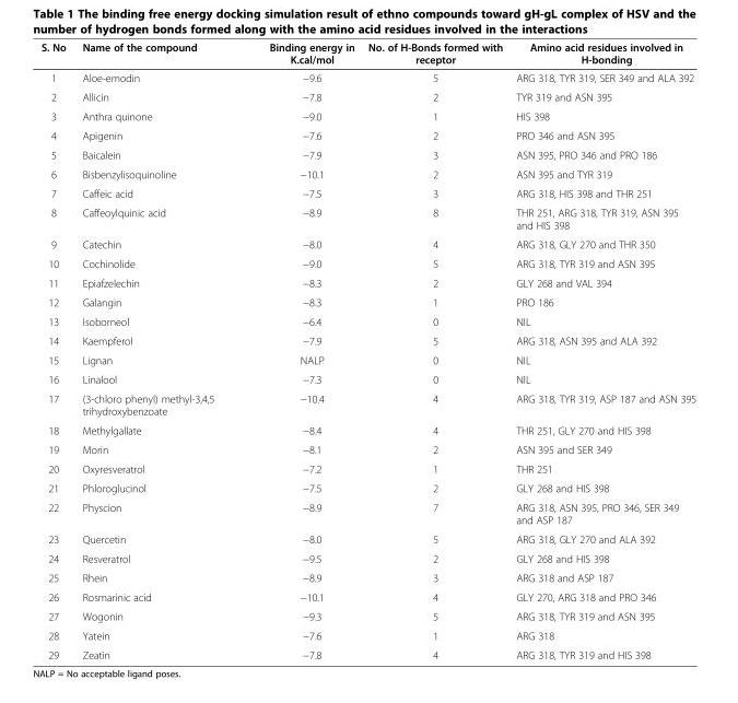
<table><thead><tr><td>S. No</td><td>Name of the compound</td><td>Binding energy in K.cal/mol</td><td>No. of H-Bonds formed with receptor</td><td>Amino acid residues involved in H-bonding</td></tr></thead><tbody><tr><td>1</td><td>Aloe-emodin</td><td>−9.6</td><td>5</td><td>ARG 318, TYR 319, SER 349 and ALA 392</td></tr><tr><td>2</td><td>Allicin</td><td>−7.8</td><td>2</td><td>TYR 319 and ASN 395</td></tr><tr><td>3</td><td>Anthra quinone</td><td>−9.0</td><td>1</td><td>HIS 398</td></tr><tr><td>4</td><td>Apigenin</td><td>−7.6</td><td>2</td><td>PRO 346 and ASN 395</td></tr><tr><td>5</td><td>Baicalein</td><td>−7.9</td><td>3</td><td>ASN 395, PRO 346 and PRO 186</td></tr><tr><td>6</td><td>Bisbenzylisoquinoline</td><td>−10.1</td><td>2</td><td>ASN 395 and TYR 319</td></tr><tr><td>7</td><td>Caffeic acid</td><td>−7.5</td><td>3</td><td>ARG 318, HIS 398 and THR 251</td></tr><tr><td>8</td><td>Caffeoylquinic acid</td><td>−8.9</td><td>8</td><td>THR 251, ARG 318, TYR 319, ASN 395 and HIS 398</td></tr><tr><td>9</td><td>Catechin</td><td>−8.0</td><td>4</td><td>ARG 318, GLY 270 and THR 350</td></tr><tr><td>10</td><td>Cochinolide</td><td>−9.0</td><td>5</td><td>ARG 318, TYR 319 and ASN 395</td></tr><tr><td>11</td><td>Epiafzelechin</td><td>−8.3</td><td>2</td><td>GLY 268 and VAL 394</td></tr><tr><td>12</td><td>Galangin</td><td>−8.3</td><td>1</td><td>PRO 186</td></tr><tr><td>13</td><td>Isoborneol</td><td>−6.4</td><td>0</td><td>NIL</td></tr><tr><td>14</td><td>Kaempferol</td><td>−7.9</td><td>5</td><td>ARG 318, ASN 395 and ALA 392</td></tr><tr><td>15</td><td>Lignan</td><td>NALP</td><td>0</td><td>NIL</td></tr><tr><td>16</td><td>Linalool</td><td>−7.3</td><td>0</td><td>NIL</td></tr><tr><td>17</td><td>(3-chloro phenyl) methyl-3,4,5 trihydroxybenzoate</td><td>−10.4</td><td>4</td><td>ARG 318, TYR 319, ASP 187 and ASN 395</td></tr><tr><td>18</td><td>Methylgallate</td><td>−8.4</td><td>4</td><td>THR 251, GLY 270 and HIS 398</td></tr><tr><td>19</td><td>Morin</td><td>−8.1</td><td>2</td><td>ASN 395 and SER 349</td></tr><tr><td>20</td><td>Oxyresveratrol</td><td>−7.2</td><td>1</td><td>THR 251</td></tr><tr><td>21</td><td>Phloroglucinol</td><td>−7.5</td><td>2</td><td>GLY 268 and HIS 398</td></tr><tr><td>22</td><td>Physcion</td><td>−8.9</td><td>7</td><td>ARG 318, ASN 395, PRO 346, SER 349 and ASP 187</td></tr><tr><td>23</td><td>Quercetin</td><td>−8.0</td><td>5</td><td>ARG 318, GLY 270 and ALA 392</td></tr><tr><td>24</td><td>Resveratrol</td><td>−9.5</td><td>2</td><td>GLY 268 and HIS 398</td></tr><tr><td>25</td><td>Rhein</td><td>−8.9</td><td>3</td><td>ARG 318 and ASP 187</td></tr><tr><td>26</td><td>Rosmarinic acid</td><td>−10.1</td><td>4</td><td>GLY 270, ARG 318 and PRO 346</td></tr><tr><td>27</td><td>Wogonin</td><td>−9.3</td><td>5</td><td>ARG 318, TYR 319 and ASN 395</td></tr><tr><td>28</td><td>Yatein</td><td>−7.6</td><td>1</td><td>ARG 318</td></tr><tr><td>29</td><td>Zeatin</td><td>−7.8</td><td>4</td><td>ARG 318, TYR 319 and HIS 398</td></tr></tbody></table>